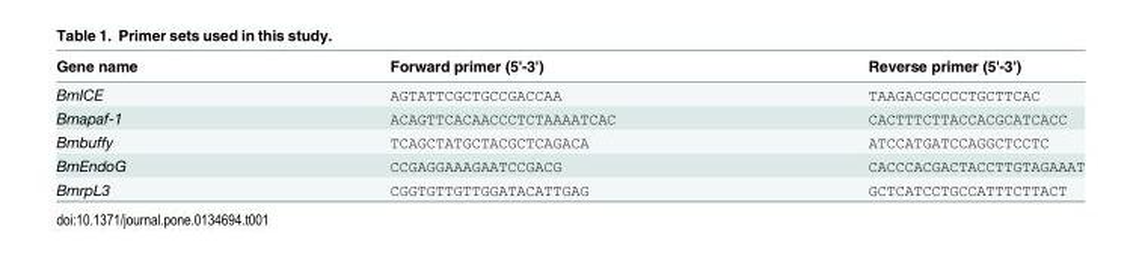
<table><thead><tr><td>Gene name</td><td>Forward primer (5&#x27;-3&#x27;)</td><td>Reverse primer (5&#x27;-3&#x27;)</td></tr></thead><tbody><tr><td>BmICE</td><td>AGTATTCGCTGCCGACCAA</td><td>TAAGACGCCCCTGCTTCAC</td></tr><tr><td>Bmapaf-1</td><td>ACAGTTCACAACCCTCTAAAATCAC</td><td>CACTTTCTTACCACGCATCACC</td></tr><tr><td>Bmbuffy</td><td>TCAGCTATGCTACGCTCAGACA</td><td>ATCCATGATCCAGGCTCCTC</td></tr><tr><td>BmEndoG</td><td>CCGAGGAAAGAATCCGACG</td><td>CACCCACGACTACCTTGTAGAAAT</td></tr><tr><td>BmrpL3</td><td>CGGTGTTGTTGGATACATTGAG</td><td>GCTCATCCTGCCATTTCTTACT</td></tr></tbody></table>